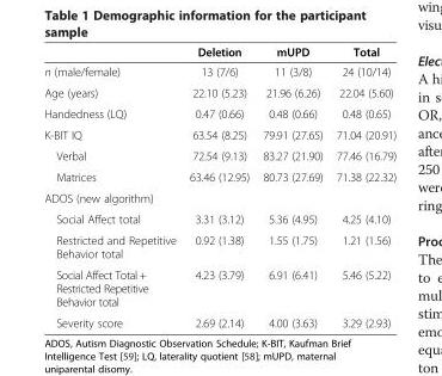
<table><thead><tr><td></td><td>Deletion</td><td>mUPD</td><td>Total</td></tr></thead><tbody><tr><td>n (male/female)</td><td>13 (7/6)</td><td>11 (3/8)</td><td>24 (10/14)</td></tr><tr><td>Age (years)</td><td>22.10 (5.23)</td><td>21.96 (6.26)</td><td>22.04 (5.60)</td></tr><tr><td>Handedness (LQ)</td><td>0.47 (0.66)</td><td>0.48 (0.66)</td><td>0.48 (0.65)</td></tr><tr><td>K-BIT IQ</td><td>63.54 (8.25)</td><td>79.91 (27.65)</td><td>71.04 (20.91)</td></tr><tr><td>Verbal</td><td>72.54 (9.13)</td><td>83.27 (21.90)</td><td>77.46 (16.79)</td></tr><tr><td>Matrices</td><td>63.46 (12.95)</td><td>80.73 (27.69)</td><td>71.38 (22.32)</td></tr><tr><td colspan="4">ADOS (new algorithm)</td></tr><tr><td>Social Affect total</td><td>3.31 (3.12)</td><td>5.36 (4.95)</td><td>4.25 (4.10)</td></tr><tr><td>Restricted and Repetitive Behavior total</td><td>0.92 (1.38)</td><td>1.55 (1.75)</td><td>1.21 (1.56)</td></tr><tr><td>Social Affect Total + Restricted Repetitive Behavior total</td><td>4.23 (3.79)</td><td>6.91 (6.41)</td><td>5.46 (5.22)</td></tr><tr><td>Severity score</td><td>2.69 (2.14)</td><td>4.00 (3.63)</td><td>3.29 (2.93)</td></tr></tbody></table>